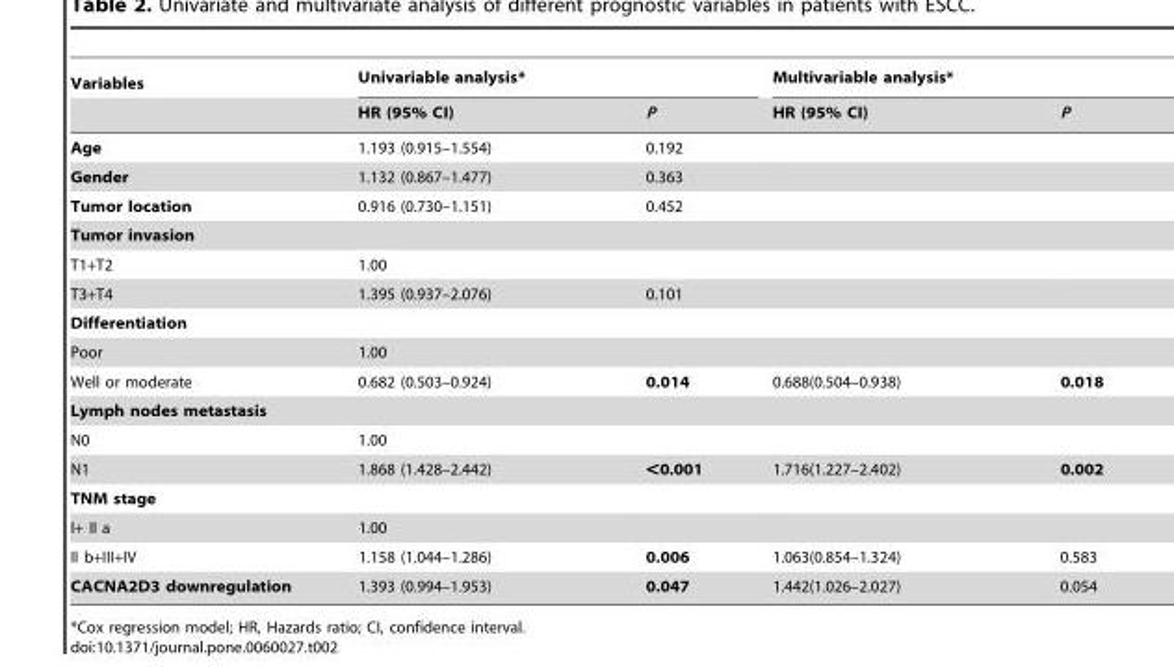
<table><thead><tr><td rowspan="2">Variables</td><td colspan="2">Univariable analysis*</td><td colspan="2">Multivariable analysis*</td></tr><tr><td>HR (95% CI)</td><td>P</td><td>HR (95% CI)</td><td>P</td></tr></thead><tbody><tr><td>Age</td><td>1.193 (0.915–1.554)</td><td>0.192</td><td></td><td></td></tr><tr><td>Gender</td><td>1.132 (0.867–1.477)</td><td>0.363</td><td></td><td></td></tr><tr><td>Tumor location</td><td>0.916 (0.730–1.151)</td><td>0.452</td><td></td><td></td></tr><tr><td colspan="5">Tumor invasion</td></tr><tr><td>T1+T2</td><td>1.00</td><td></td><td></td><td></td></tr><tr><td>T3+T4</td><td>1.395 (0.937–2.076)</td><td>0.101</td><td></td><td></td></tr><tr><td colspan="5">Differentiation</td></tr><tr><td>Poor</td><td>1.00</td><td></td><td></td><td></td></tr><tr><td>Well or moderate</td><td>0.682 (0.503–0.924)</td><td>0.014</td><td>0.688(0.504–0.938)</td><td>0.018</td></tr><tr><td colspan="5">Lymph nodes metastasis</td></tr><tr><td>N0</td><td>1.00</td><td></td><td></td><td></td></tr><tr><td>N1</td><td>1.868 (1.428–2.442)</td><td>&lt;0.001</td><td>1.716(1.227–2.402)</td><td>0.002</td></tr><tr><td colspan="5">TNM stage</td></tr><tr><td>I+ II a</td><td>1.00</td><td></td><td></td><td></td></tr><tr><td>II b+III+IV</td><td>1.158 (1.044–1.286)</td><td>0.006</td><td>1.063(0.854–1.324)</td><td>0.583</td></tr><tr><td>CACNA2D3 downregulation</td><td>1.393 (0.994–1.953)</td><td>0.047</td><td>1.442(1.026–2.027)</td><td>0.054</td></tr></tbody></table>